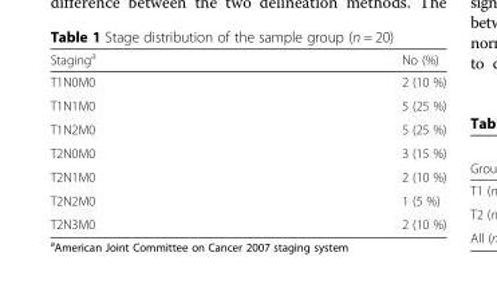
<table><thead><tr><td>Staging<sup>a</sup></td><td>No (%)</td></tr></thead><tbody><tr><td>T1N0M0</td><td>2 (10 %)</td></tr><tr><td>T1N1M0</td><td>5 (25 %)</td></tr><tr><td>T1N2M0</td><td>5 (25 %)</td></tr><tr><td>T2N0M0</td><td>3 (15 %)</td></tr><tr><td>T2N1M0</td><td>2 (10 %)</td></tr><tr><td>T2N2M0</td><td>1 (5 %)</td></tr><tr><td>T2N3M0</td><td>2 (10 %)</td></tr></tbody></table>